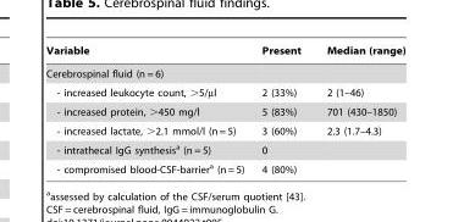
<table><thead><tr><td>Variable</td><td>Present</td><td>Median (range)</td></tr></thead><tbody><tr><td colspan="3">Cerebrospinal fluid (n = 6)</td></tr><tr><td>- increased leukocyte count, &gt;5/µl</td><td>2 (33%)</td><td>2 (1–46)</td></tr><tr><td>- increased protein, &gt;450 mg/l</td><td>5 (83%)</td><td>701 (430–1850)</td></tr><tr><td>- increased lactate, &gt;2.1 mmol/l (n = 5)</td><td>3 (60%)</td><td>2.3 (1.7–4.3)</td></tr><tr><td>- intrathecal IgG synthesis<sup>a</sup> (n = 5)</td><td>0</td><td></td></tr><tr><td>- compromised blood-CSF-barrier<sup>a</sup> (n = 5)</td><td>4 (80%)</td><td></td></tr></tbody></table>